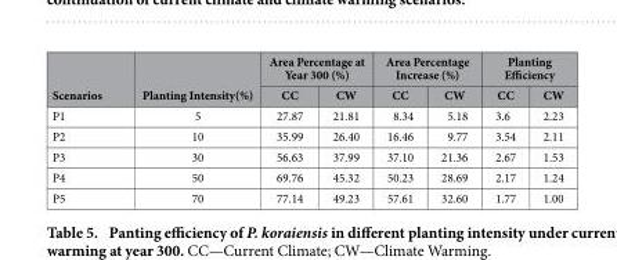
<table><thead><tr><td rowspan="2">Scenarios</td><td rowspan="2">Planting Intensity(%)</td><td colspan="2">Area Percentage at Year 300 (%)</td><td colspan="2">Area Percentage Increase (%)</td><td colspan="2">Planting Efficiency</td></tr><tr><td>CC</td><td>CW</td><td>CC</td><td>CW</td><td>CC</td><td>CW</td></tr></thead><tbody><tr><td>P1</td><td>5</td><td>27.87</td><td>21.81</td><td>8.34</td><td>5.18</td><td>3.6</td><td>2.23</td></tr><tr><td>P2</td><td>10</td><td>35.99</td><td>26.40</td><td>16.46</td><td>9.77</td><td>3.54</td><td>2.11</td></tr><tr><td>P3</td><td>30</td><td>56.63</td><td>37.99</td><td>37.10</td><td>21.36</td><td>2.67</td><td>1.53</td></tr><tr><td>P4</td><td>50</td><td>69.76</td><td>45.32</td><td>50.23</td><td>28.69</td><td>2.17</td><td>1.24</td></tr><tr><td>P5</td><td>70</td><td>77.14</td><td>49.23</td><td>57.61</td><td>32.60</td><td>1.77</td><td>1.00</td></tr></tbody></table>